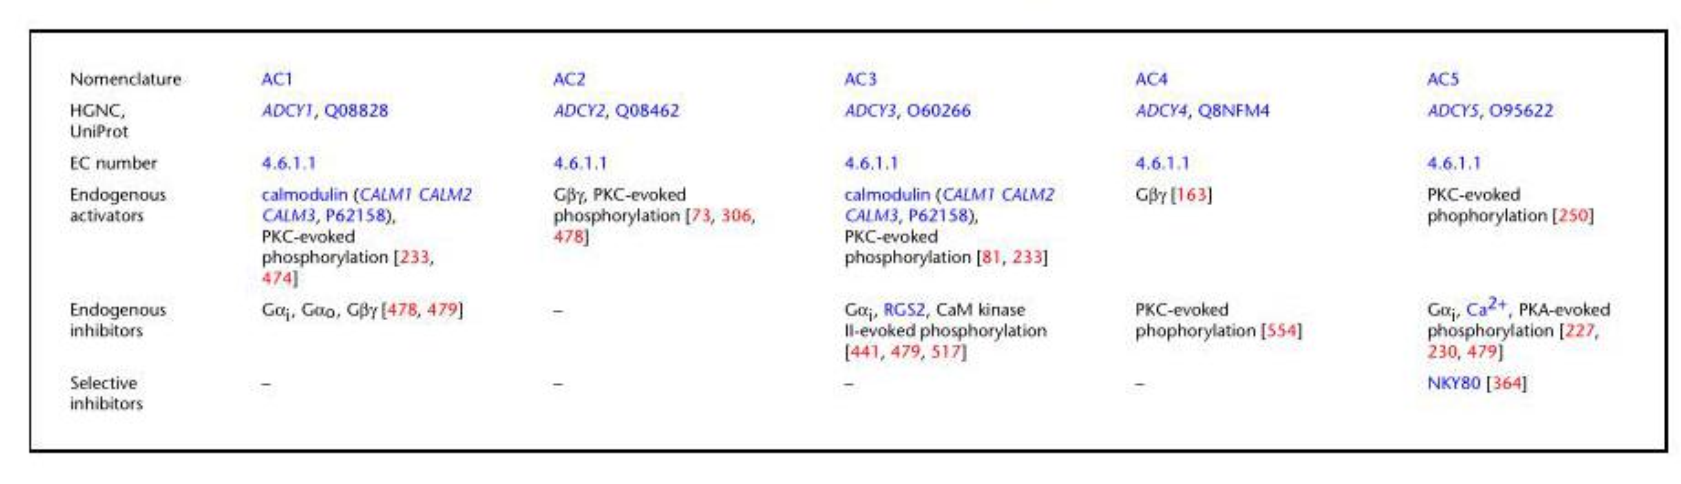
<table><tbody><tr><td>Nomenclature</td><td>AC1</td><td>AC2</td><td>AC3</td><td>AC4</td><td>AC5</td></tr><tr><td>HGNC, UniProt</td><td>ADCY1, Q08828</td><td>ADCY2, Q08462</td><td>ADCY3, O60266</td><td>ADCY4, Q8NFM4</td><td>ADCY5, O95622</td></tr><tr><td>EC number</td><td>4.6.1.1</td><td>4.6.1.1</td><td>4.6.1.1</td><td>4.6.1.1</td><td>4.6.1.1</td></tr><tr><td>Endogenous activators</td><td>calmodulin (CALM1 CALM2 CALM3, P62158), PKC-evoked phosphorylation [233, 474]</td><td>Gβγ, PKC-evoked phosphorylation [73, 306, 478]</td><td>calmodulin (CALM1 CALM2 CALM3, P62158), PKC-evoked phosphorylation [81, 233]</td><td>Gβγ [163]</td><td>PKC-evoked phophorylation [250]</td></tr><tr><td>Endogenous inhibitors</td><td>Gα<sub>i</sub>, Gα<sub>o</sub>, Gβγ [478, 479]</td><td>–</td><td>Gα<sub>i</sub>, RGS2, CaM kinase II-evoked phosphorylation [441, 479, 517]</td><td>PKC-evoked phophorylation [554]</td><td>Gα<sub>i</sub>, Ca<sup>2+</sup>, PKA-evoked phosphorylation [227, 230, 479]</td></tr><tr><td>Selective inhibitors</td><td>–</td><td>–</td><td>–</td><td>–</td><td>NKY80 [364]</td></tr></tbody></table>